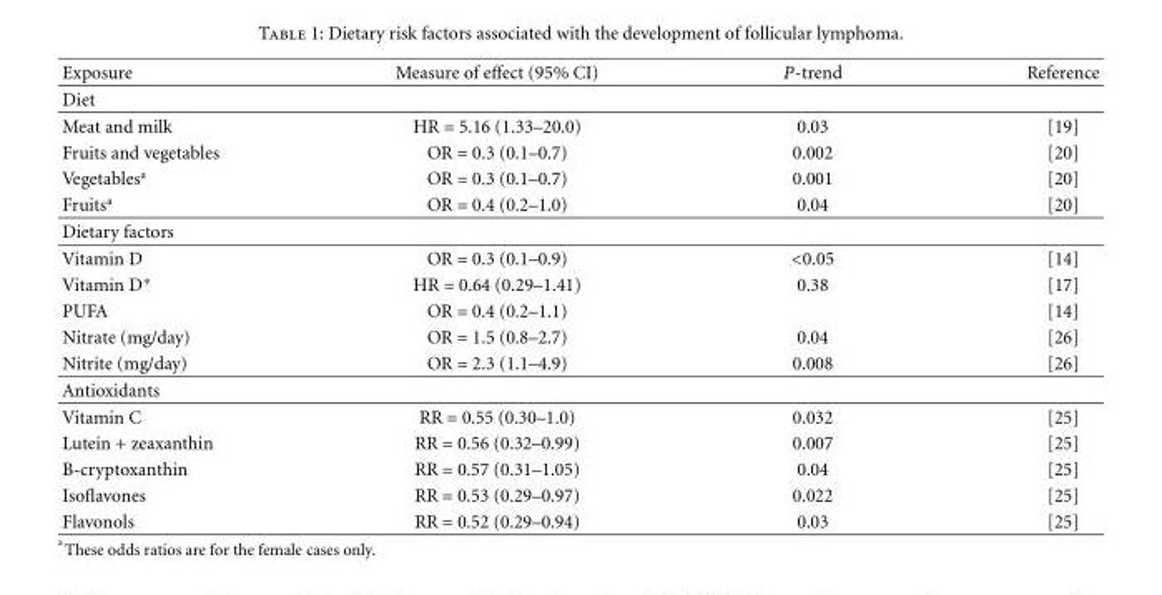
<table><thead><tr><td>Exposure</td><td>Measure of effect (95% CI)</td><td>P-trend</td><td>Reference</td></tr></thead><tbody><tr><td colspan="4">Diet</td></tr><tr><td>Meat and milk</td><td>HR = 5.16 (1.33–20.0)</td><td>0.03</td><td>[19]</td></tr><tr><td>Fruits and vegetables</td><td>OR = 0.3 (0.1–0.7)</td><td>0.002</td><td>[20]</td></tr><tr><td>Vegetables<sup>a</sup></td><td>OR = 0.3 (0.1–0.7)</td><td>0.001</td><td>[20]</td></tr><tr><td>Fruits<sup>a</sup></td><td>OR = 0.4 (0.2–1.0)</td><td>0.04</td><td>[20]</td></tr><tr><td colspan="4">Dietary factors</td></tr><tr><td>Vitamin D</td><td>OR = 0.3 (0.1–0.9)</td><td>&lt;0.05</td><td>[14]</td></tr><tr><td>Vitamin D∗</td><td>HR = 0.64 (0.29–1.41)</td><td>0.38</td><td>[17]</td></tr><tr><td>PUFA</td><td>OR = 0.4 (0.2–1.1)</td><td></td><td>[14]</td></tr><tr><td>Nitrate (mg/day)</td><td>OR = 1.5 (0.8–2.7)</td><td>0.04</td><td>[26]</td></tr><tr><td>Nitrite (mg/day)</td><td>OR = 2.3 (1.1–4.9)</td><td>0.008</td><td>[26]</td></tr><tr><td colspan="4">Antioxidants</td></tr><tr><td>Vitamin C</td><td>RR = 0.55 (0.30–1.0)</td><td>0.032</td><td>[25]</td></tr><tr><td>Lutein + zeaxanthin</td><td>RR = 0.56 (0.32–0.99)</td><td>0.007</td><td>[25]</td></tr><tr><td>B-cryptoxanthin</td><td>RR = 0.57 (0.31–1.05)</td><td>0.04</td><td>[25]</td></tr><tr><td>Isoflavones</td><td>RR = 0.53 (0.29–0.97)</td><td>0.022</td><td>[25]</td></tr><tr><td>Flavonols</td><td>RR = 0.52 (0.29–0.94)</td><td>0.03</td><td>[25]</td></tr></tbody></table>